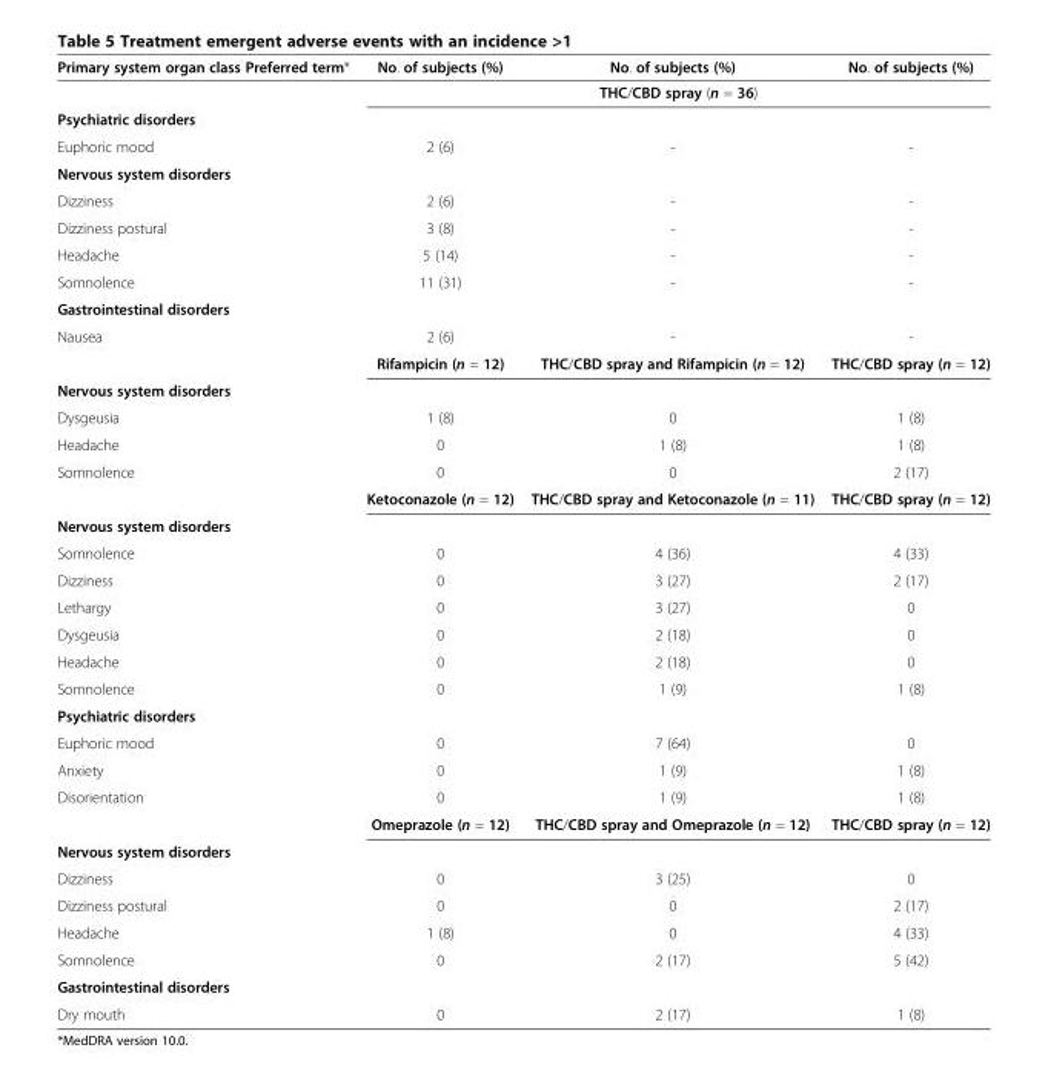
<table><thead><tr><td>Primary system organ class Preferred term*</td><td>No. of subjects (%)</td><td>No. of subjects (%)</td><td>No. of subjects (%)</td></tr></thead><tbody><tr><td></td><td colspan="3">THC/CBD spray (n = 36)</td></tr><tr><td colspan="4">Psychiatric disorders</td></tr><tr><td>Euphoric mood</td><td>2 (6)</td><td>-</td><td>-</td></tr><tr><td colspan="4">Nervous system disorders</td></tr><tr><td>Dizziness</td><td>2 (6)</td><td>-</td><td>-</td></tr><tr><td>Dizziness postural</td><td>3 (8)</td><td>-</td><td>-</td></tr><tr><td>Headache</td><td>5 (14)</td><td>-</td><td>-</td></tr><tr><td>Somnolence</td><td>11 (31)</td><td>-</td><td>-</td></tr><tr><td colspan="4">Gastrointestinal disorders</td></tr><tr><td rowspan="2">Nausea</td><td>2 (6)</td><td>-</td><td>-</td></tr><tr><td>Rifampicin (n = 12)</td><td>THC/CBD spray and Rifampicin (n = 12)</td><td>THC/CBD spray (n = 12)</td></tr><tr><td colspan="4">Nervous system disorders</td></tr><tr><td>Dysgeusia</td><td>1 (8)</td><td>0</td><td>1 (8)</td></tr><tr><td>Headache</td><td>0</td><td>1 (8)</td><td>1 (8)</td></tr><tr><td rowspan="2">Somnolence</td><td>0</td><td>0</td><td>2 (17)</td></tr><tr><td>Ketoconazole (n = 12)</td><td>THC/CBD spray and Ketoconazole (n = 11)</td><td>THC/CBD spray (n = 12)</td></tr><tr><td colspan="4">Nervous system disorders</td></tr><tr><td>Somnolence</td><td>0</td><td>4 (36)</td><td>4 (33)</td></tr><tr><td>Dizziness</td><td>0</td><td>3 (27)</td><td>2 (17)</td></tr><tr><td>Lethargy</td><td>0</td><td>3 (27)</td><td>0</td></tr><tr><td>Dysgeusia</td><td>0</td><td>2 (18)</td><td>0</td></tr><tr><td>Headache</td><td>0</td><td>2 (18)</td><td>0</td></tr><tr><td>Somnolence</td><td>0</td><td>1 (9)</td><td>1 (8)</td></tr><tr><td colspan="4">Psychiatric disorders</td></tr><tr><td>Euphoric mood</td><td>0</td><td>7 (64)</td><td>0</td></tr><tr><td>Anxiety</td><td>0</td><td>1 (9)</td><td>1 (8)</td></tr><tr><td rowspan="2">Disorientation</td><td>0</td><td>1 (9)</td><td>1 (8)</td></tr><tr><td>Omeprazole (n = 12)</td><td>THC/CBD spray and Omeprazole (n = 12)</td><td>THC/CBD spray (n = 12)</td></tr><tr><td colspan="4">Nervous system disorders</td></tr><tr><td>Dizziness</td><td>0</td><td>3 (25)</td><td>0</td></tr><tr><td>Dizziness postural</td><td>0</td><td>0</td><td>2 (17)</td></tr><tr><td>Headache</td><td>1 (8)</td><td>0</td><td>4 (33)</td></tr><tr><td>Somnolence</td><td>0</td><td>2 (17)</td><td>5 (42)</td></tr><tr><td colspan="4">Gastrointestinal disorders</td></tr><tr><td>Dry mouth</td><td>0</td><td>2 (17)</td><td>1 (8)</td></tr></tbody></table>